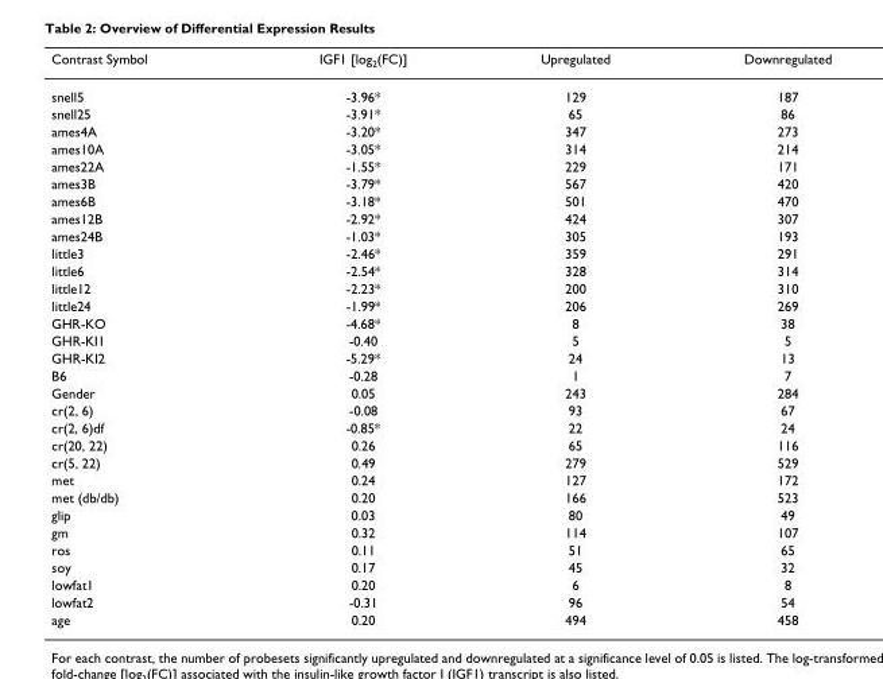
<table><thead><tr><td>Contrast Symbol</td><td>IGF1 [log<sub>2</sub>(FC)]</td><td>Upregulated</td><td>Downregulated</td></tr></thead><tbody><tr><td>snell5</td><td>-3.96*</td><td>129</td><td>187</td></tr><tr><td>snell25</td><td>-3.91*</td><td>65</td><td>86</td></tr><tr><td>ames4A</td><td>-3.20*</td><td>347</td><td>273</td></tr><tr><td>ames10A</td><td>-3.05*</td><td>314</td><td>214</td></tr><tr><td>ames22A</td><td>-1.55*</td><td>229</td><td>171</td></tr><tr><td>ames3B</td><td>-3.79*</td><td>567</td><td>420</td></tr><tr><td>ames6B</td><td>-3.18*</td><td>501</td><td>470</td></tr><tr><td>ames12B</td><td>-2.92*</td><td>424</td><td>307</td></tr><tr><td>ames24B</td><td>-1.03*</td><td>305</td><td>193</td></tr><tr><td>little3</td><td>-2.46*</td><td>359</td><td>291</td></tr><tr><td>little6</td><td>-2.54*</td><td>328</td><td>314</td></tr><tr><td>little12</td><td>-2.23*</td><td>200</td><td>310</td></tr><tr><td>little24</td><td>-1.99*</td><td>206</td><td>269</td></tr><tr><td>GHR-KO</td><td>-4.68*</td><td>8</td><td>38</td></tr><tr><td>GHR-KI1</td><td>-0.40</td><td>5</td><td>5</td></tr><tr><td>GHR-KI2</td><td>-5.29*</td><td>24</td><td>13</td></tr><tr><td>B6</td><td>-0.28</td><td>1</td><td>7</td></tr><tr><td>Gender</td><td>0.05</td><td>243</td><td>284</td></tr><tr><td>cr(2, 6)</td><td>-0.08</td><td>93</td><td>67</td></tr><tr><td>cr(2, 6)df</td><td>-0.85*</td><td>22</td><td>24</td></tr><tr><td>cr(20, 22)</td><td>0.26</td><td>65</td><td>116</td></tr><tr><td>cr(5, 22)</td><td>0.49</td><td>279</td><td>529</td></tr><tr><td>met</td><td>0.24</td><td>127</td><td>172</td></tr><tr><td>met (db/db)</td><td>0.20</td><td>166</td><td>523</td></tr><tr><td>glip</td><td>0.03</td><td>80</td><td>49</td></tr><tr><td>gm</td><td>0.32</td><td>114</td><td>107</td></tr><tr><td>ros</td><td>0.11</td><td>51</td><td>65</td></tr><tr><td>soy</td><td>0.17</td><td>45</td><td>32</td></tr><tr><td>lowfat1</td><td>0.20</td><td>6</td><td>8</td></tr><tr><td>lowfat2</td><td>-0.31</td><td>96</td><td>54</td></tr><tr><td>age</td><td>0.20</td><td>494</td><td>458</td></tr></tbody></table>